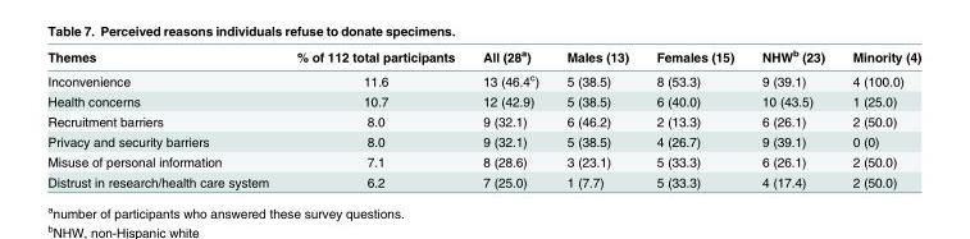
<table><thead><tr><td>Themes</td><td>% of 112 total participants</td><td>All (28<sup>a</sup>)</td><td>Males (13)</td><td>Females (15)</td><td>NHW<sup>b</sup> (23)</td><td>Minority (4)</td></tr></thead><tbody><tr><td>Inconvenience</td><td>11.6</td><td>13 (46.4<sup>c</sup>)</td><td>5 (38.5)</td><td>8 (53.3)</td><td>9 (39.1)</td><td>4 (100.0)</td></tr><tr><td>Health concerns</td><td>10.7</td><td>12 (42.9)</td><td>5 (38.5)</td><td>6 (40.0)</td><td>10 (43.5)</td><td>1 (25.0)</td></tr><tr><td>Recruitment barriers</td><td>8.0</td><td>9 (32.1)</td><td>6 (46.2)</td><td>2 (13.3)</td><td>6 (26.1)</td><td>2 (50.0)</td></tr><tr><td>Privacy and security barriers</td><td>8.0</td><td>9 (32.1)</td><td>5 (38.5)</td><td>4 (26.7)</td><td>9 (39.1)</td><td>0 (0)</td></tr><tr><td>Misuse of personal information</td><td>7.1</td><td>8 (28.6)</td><td>3 (23.1)</td><td>5 (33.3)</td><td>6 (26.1)</td><td>2 (50.0)</td></tr><tr><td>Distrust in research/health care system</td><td>6.2</td><td>7 (25.0)</td><td>1 (7.7)</td><td>5 (33.3)</td><td>4 (17.4)</td><td>2 (50.0)</td></tr></tbody></table>